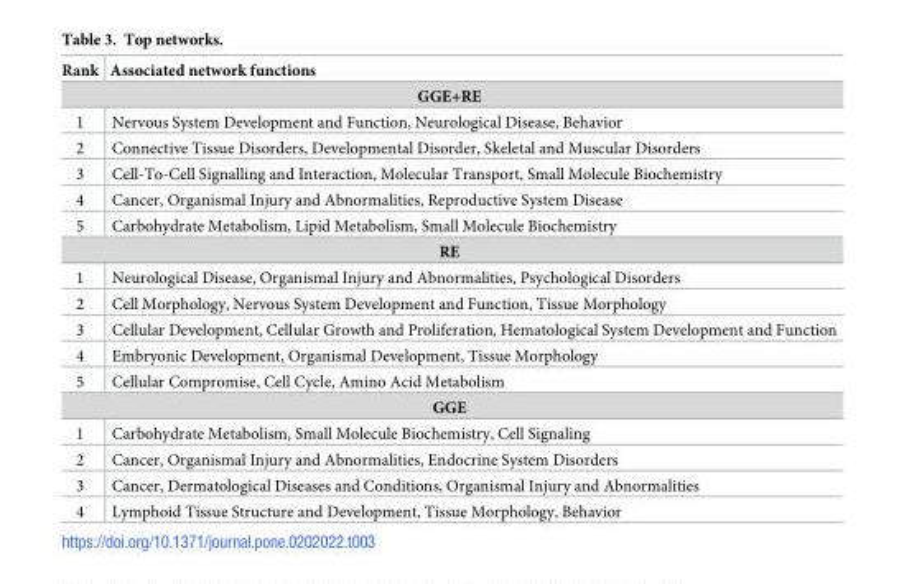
<table><thead><tr><td>Rank</td><td>Associated network functions</td></tr></thead><tbody><tr><td colspan="2">GGE+RE</td></tr><tr><td>1</td><td>Nervous System Development and Function, Neurological Disease, Behavior</td></tr><tr><td>2</td><td>Connective Tissue Disorders, Developmental Disorder, Skeletal and Muscular Disorders</td></tr><tr><td>3</td><td>Cell-To-Cell Signalling and Interaction, Molecular Transport, Small Molecule Biochemistry</td></tr><tr><td>4</td><td>Cancer, Organismal Injury and Abnormalities, Reproductive System Disease</td></tr><tr><td>5</td><td>Carbohydrate Metabolism, Lipid Metabolism, Small Molecule Biochemistry</td></tr><tr><td colspan="2">RE</td></tr><tr><td>1</td><td>Neurological Disease, Organismal Injury and Abnormalities, Psychological Disorders</td></tr><tr><td>2</td><td>Cell Morphology, Nervous System Development and Function, Tissue Morphology</td></tr><tr><td>3</td><td>Cellular Development, Cellular Growth and Proliferation, Hematological System Development and Function</td></tr><tr><td>4</td><td>Embryonic Development, Organismal Development, Tissue Morphology</td></tr><tr><td>5</td><td>Cellular Compromise, Cell Cycle, Amino Acid Metabolism</td></tr><tr><td colspan="2">GGE</td></tr><tr><td>1</td><td>Carbohydrate Metabolism, Small Molecule Biochemistry, Cell Signaling</td></tr><tr><td>2</td><td>Cancer, Organismal Injury and Abnormalities, Endocrine System Disorders</td></tr><tr><td>3</td><td>Cancer, Dermatological Diseases and Conditions, Organismal Injury and Abnormalities</td></tr><tr><td>4</td><td>Lymphoid Tissue Structure and Development, Tissue Morphology, Behavior</td></tr></tbody></table>